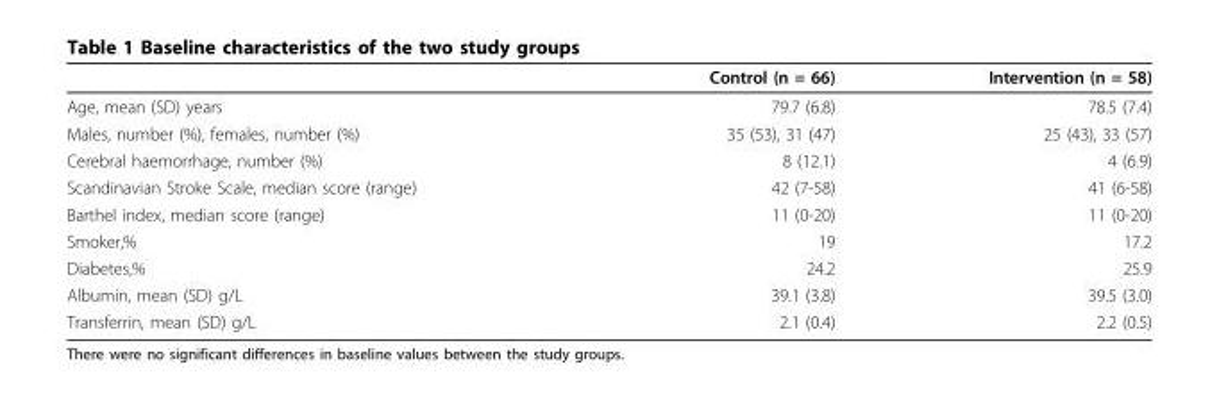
<table><thead><tr><td></td><td>Control (n = 66)</td><td>Intervention (n = 58)</td></tr></thead><tbody><tr><td>Age, mean (SD) years</td><td>79.7 (6.8)</td><td>78.5 (7.4)</td></tr><tr><td>Males, number (%), females, number (%)</td><td>35 (53), 31 (47)</td><td>25 (43), 33 (57)</td></tr><tr><td>Cerebral haemorrhage, number (%)</td><td>8 (12.1)</td><td>4 (6.9)</td></tr><tr><td>Scandinavian Stroke Scale, median score (range)</td><td>42 (7-58)</td><td>41 (6-58)</td></tr><tr><td>Barthel index, median score (range)</td><td>11 (0-20)</td><td>11 (0-20)</td></tr><tr><td>Smoker,%</td><td>19</td><td>17.2</td></tr><tr><td>Diabetes,%</td><td>24.2</td><td>25.9</td></tr><tr><td>Albumin, mean (SD) g/L</td><td>39.1 (3.8)</td><td>39.5 (3.0)</td></tr><tr><td>Transferrin, mean (SD) g/L</td><td>2.1 (0.4)</td><td>2.2 (0.5)</td></tr></tbody></table>